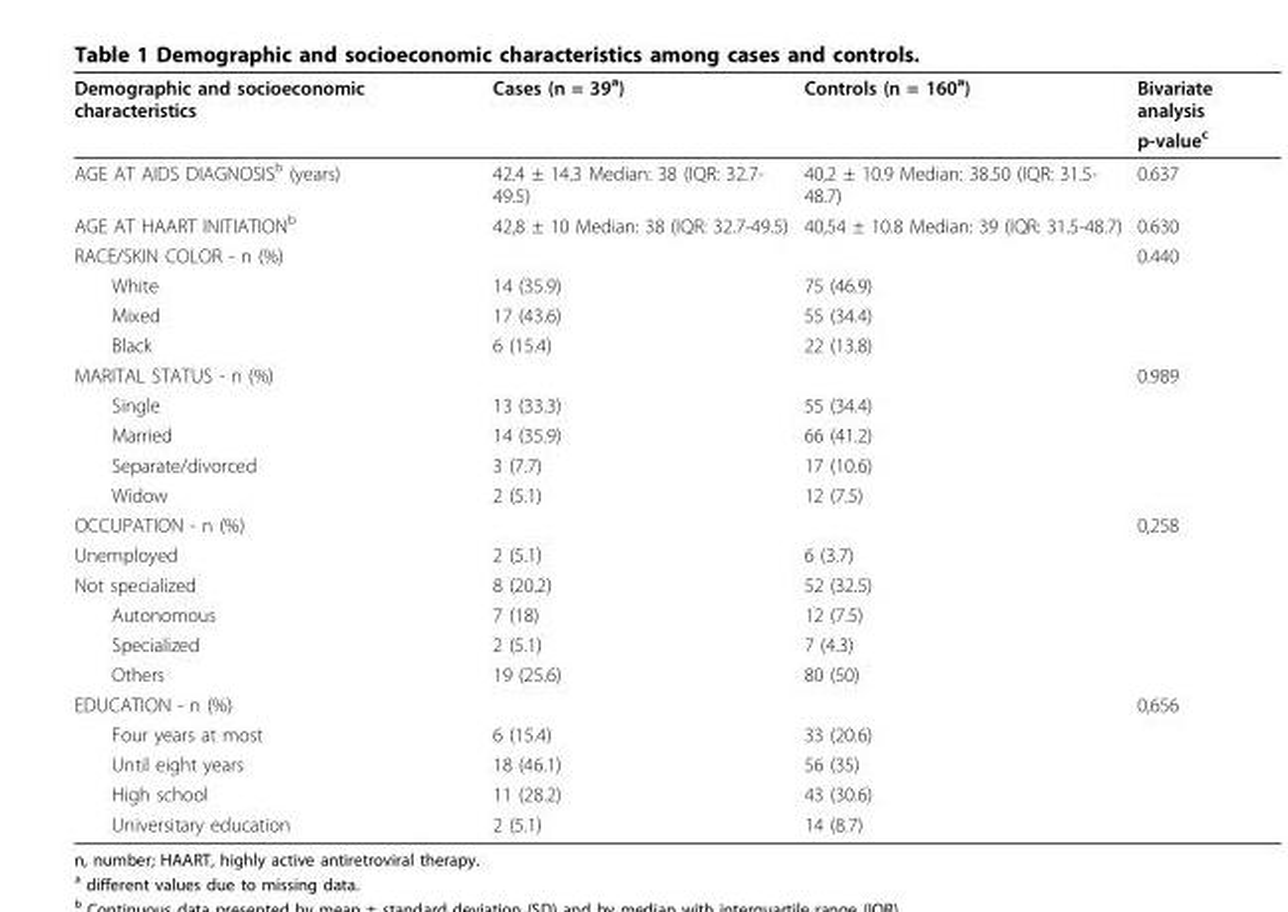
<table><thead><tr><td rowspan="2">Demographic and socioeconomic characteristics</td><td rowspan="2">Cases (n = 39<sup>a</sup>)</td><td rowspan="2">Controls (n = 160<sup>a</sup>)</td><td rowspan="2">Bivariate analysis p-value<sup>c</sup></td></tr><tr></tr></thead><tbody><tr><td>AGE AT AIDS DIAGNOSIS<sup>b</sup> (years)</td><td>42.4 ± 14.3 Median: 38 (IQR: 32.7- 49.5)</td><td>40,2 ± 10.9 Median: 38.50 (IQR: 31.5- 48.7)</td><td>0.637</td></tr><tr><td>AGE AT HAART INITIATION<sup>b</sup></td><td>42,8 ± 10 Median: 38 (IQR: 32.7-49.5)</td><td>40,54 ± 10.8 Median: 39 (IQR: 31.5-48.7)</td><td>0.630</td></tr><tr><td>RACE/SKIN COLOR - n (%)</td><td></td><td></td><td>0.440</td></tr><tr><td>White</td><td>14 (35.9)</td><td>75 (46.9)</td><td></td></tr><tr><td>Mixed</td><td>17 (43.6)</td><td>55 (34.4)</td><td></td></tr><tr><td>Black</td><td>6 (15.4)</td><td>22 (13.8)</td><td></td></tr><tr><td>MARITAL STATUS - n (%)</td><td></td><td></td><td>0.989</td></tr><tr><td>Single</td><td>13 (33.3)</td><td>55 (34.4)</td><td></td></tr><tr><td>Married</td><td>14 (35.9)</td><td>66 (41.2)</td><td></td></tr><tr><td>Separate/divorced</td><td>3 (7.7)</td><td>17 (10.6)</td><td></td></tr><tr><td>Widow</td><td>2 (5.1)</td><td>12 (7.5)</td><td></td></tr><tr><td>OCCUPATION - n (%)</td><td></td><td></td><td>0,258</td></tr><tr><td>Unemployed</td><td>2 (5.1)</td><td>6 (3.7)</td><td></td></tr><tr><td>Not specialized</td><td>8 (20.2)</td><td>52 (32.5)</td><td></td></tr><tr><td>Autonomous</td><td>7 (18)</td><td>12 (7.5)</td><td></td></tr><tr><td>Specialized</td><td>2 (5.1)</td><td>7 (4.3)</td><td></td></tr><tr><td>Others</td><td>19 (25.6)</td><td>80 (50)</td><td></td></tr><tr><td>EDUCATION - n (%)</td><td></td><td></td><td>0,656</td></tr><tr><td>Four years at most</td><td>6 (15.4)</td><td>33 (20.6)</td><td></td></tr><tr><td>Until eight years</td><td>18 (46.1)</td><td>56 (35)</td><td></td></tr><tr><td>High school</td><td>11 (28.2)</td><td>43 (30.6)</td><td></td></tr><tr><td>Universitary education</td><td>2 (5.1)</td><td>14 (8.7)</td><td></td></tr></tbody></table>